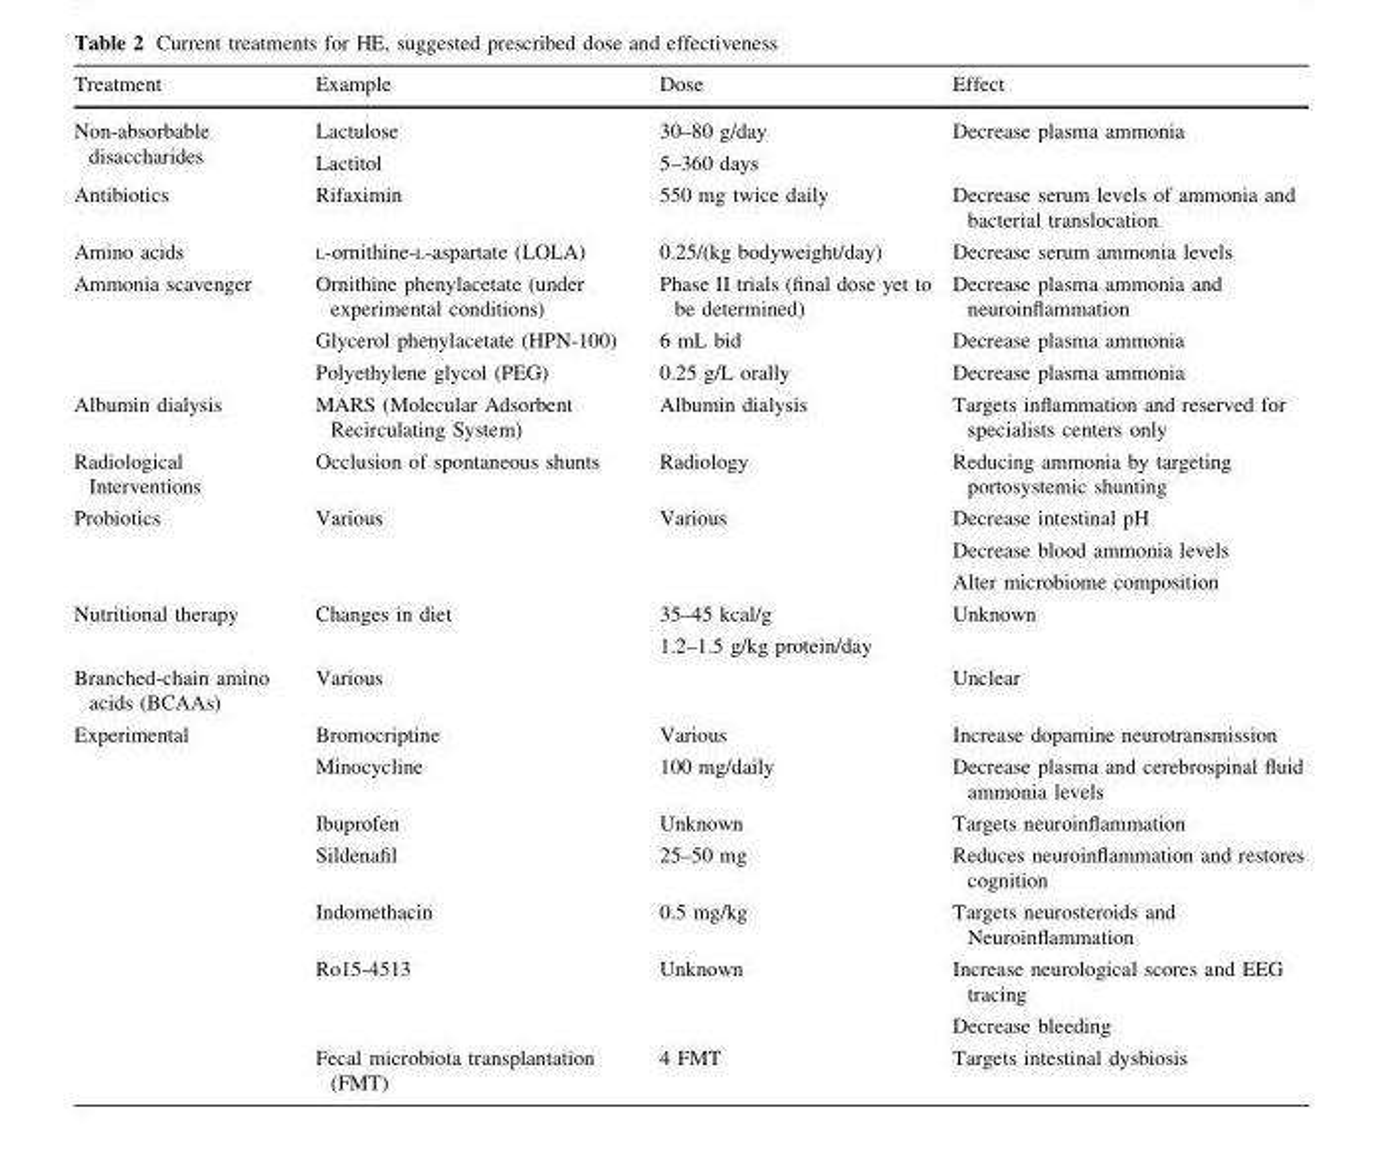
<table><thead><tr><td>Treatment</td><td>Example</td><td>Dose</td><td>Effect</td></tr></thead><tbody><tr><td rowspan="2">Non-absorbable disaccharides</td><td>Lactulose</td><td>30–80 g/day</td><td rowspan="2">Decrease plasma ammonia</td></tr><tr><td>Lactitol</td><td>5–360 days</td></tr><tr><td>Antibiotics</td><td>Rifaximin</td><td>550 mg twice daily</td><td>Decrease serum levels of ammonia and bacterial translocation</td></tr><tr><td>Amino acids</td><td>L-ornithine-L-aspartate (LOLA)</td><td>0.25/(kg bodyweight/day)</td><td>Decrease serum ammonia levels</td></tr><tr><td rowspan="3">Ammonia scavenger</td><td>Ornithine phenylacetate (under experimental conditions)</td><td>Phase II trials (final dose yet to be determined)</td><td>Decrease plasma ammonia and neuroinflammation</td></tr><tr><td>Glycerol phenylacetate (HPN-100)</td><td>6 mL bid</td><td>Decrease plasma ammonia</td></tr><tr><td>Polyethylene glycol (PEG)</td><td>0.25 g/L orally</td><td>Decrease plasma ammonia</td></tr><tr><td>Albumin dialysis</td><td>MARS (Molecular Adsorbent Recirculating System)</td><td>Albumin dialysis</td><td>Targets inflammation and reserved for specialists centers only</td></tr><tr><td>Radiological Interventions</td><td>Occlusion of spontaneous shunts</td><td>Radiology</td><td>Reducing ammonia by targeting portosystemic shunting</td></tr><tr><td rowspan="3">Probiotics</td><td rowspan="3">Various</td><td rowspan="3">Various</td><td>Decrease intestinal pH</td></tr><tr><td>Decrease blood ammonia levels</td></tr><tr><td>Alter microbiome composition</td></tr><tr><td rowspan="2">Nutritional therapy</td><td rowspan="2">Changes in diet</td><td>35–45 kcal/g</td><td rowspan="2">Unknown</td></tr><tr><td>1.2–1.5 g/kg protein/day</td></tr><tr><td>Branched-chain amino acids (BCAAs)</td><td>Various</td><td></td><td>Unclear</td></tr><tr><td rowspan="7">Experimental</td><td>Bromocriptine</td><td>Various</td><td>Increase dopamine neurotransmission</td></tr><tr><td>Minocycline</td><td>100 mg/daily</td><td>Decrease plasma and cerebrospinal fluid ammonia levels</td></tr><tr><td>Ibuprofen</td><td>Unknown</td><td>Targets neuroinflammation</td></tr><tr><td>Sildenafil</td><td>25–50 mg</td><td>Reduces neuroinflammation and restores cognition</td></tr><tr><td>Indomethacin</td><td>0.5 mg/kg</td><td>Targets neurosteroids and Neuroinflammation</td></tr><tr><td>Ro15-4513</td><td>Unknown</td><td>Increase neurological scores and EEG tracing Decrease bleeding</td></tr><tr><td>Fecal microbiota transplantation (FMT)</td><td>4 FMT</td><td>Targets intestinal dysbiosis</td></tr></tbody></table>